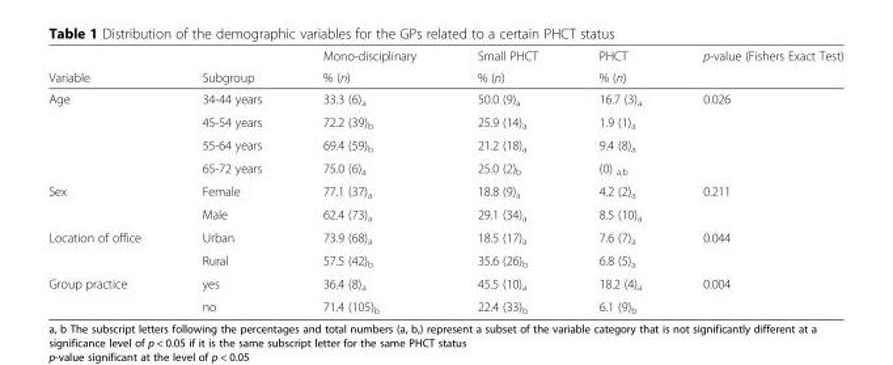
<table><thead><tr><td rowspan="2">Variable</td><td rowspan="2">Subgroup</td><td rowspan="2">Mono-disciplinary % (n)</td><td rowspan="2">Small PHCT % (n)</td><td rowspan="2">PHCT % (n)</td><td rowspan="2">p-value (Fishers Exact Test)</td></tr><tr></tr></thead><tbody><tr><td rowspan="4">Age</td><td>34-44 years</td><td>33.3 (6)<sub>a</sub></td><td>50.0 (9)<sub>a</sub></td><td>16.7 (3)<sub>a</sub></td><td rowspan="4">0.026</td></tr><tr><td>45-54 years</td><td>72.2 (39)<sub>b</sub></td><td>25.9 (14)<sub>a</sub></td><td>1.9 (1)<sub>a</sub></td></tr><tr><td>55-64 years</td><td>69.4 (59)<sub>b</sub></td><td>21.2 (18)<sub>a</sub></td><td>9.4 (8)<sub>a</sub></td></tr><tr><td>65-72 years</td><td>75.0 (6)<sub>a</sub></td><td>25.0 (2)<sub>b</sub></td><td>(0) <sub>a,b</sub></td></tr><tr><td rowspan="2">Sex</td><td>Female</td><td>77.1 (37)<sub>a</sub></td><td>18.8 (9)<sub>a</sub></td><td>4.2 (2)<sub>a</sub></td><td rowspan="2">0.211</td></tr><tr><td>Male</td><td>62.4 (73)<sub>a</sub></td><td>29.1 (34)<sub>a</sub></td><td>8.5 (10)<sub>a</sub></td></tr><tr><td rowspan="2">Location of office</td><td>Urban</td><td>73.9 (68)<sub>a</sub></td><td>18.5 (17)<sub>a</sub></td><td>7.6 (7)<sub>a</sub></td><td rowspan="2">0.044</td></tr><tr><td>Rural</td><td>57.5 (42)<sub>b</sub></td><td>35.6 (26)<sub>b</sub></td><td>6.8 (5)<sub>a</sub></td></tr><tr><td rowspan="2">Group practice</td><td>yes</td><td>36.4 (8)<sub>a</sub></td><td>45.5 (10)<sub>a</sub></td><td>18.2 (4)<sub>a</sub></td><td rowspan="2">0.004</td></tr><tr><td>no</td><td>71.4 (105)<sub>b</sub></td><td>22.4 (33)<sub>b</sub></td><td>6.1 (9)<sub>b</sub></td></tr></tbody></table>